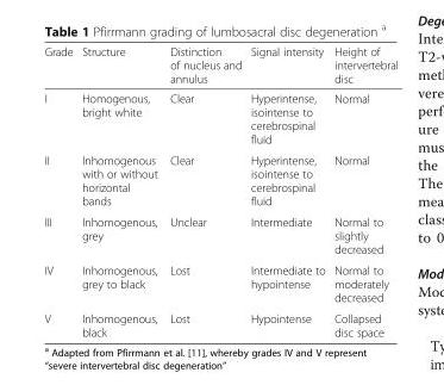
<table><thead><tr><td>Grade</td><td>Structure</td><td>Distinction of nucleus and annulus</td><td>Signal intensity</td><td>Height of intervertebral disc</td></tr></thead><tbody><tr><td>I</td><td>Homogenous, bright white</td><td>Clear</td><td>Hyperintense, isointense to cerebrospinal fluid</td><td>Normal</td></tr><tr><td>II</td><td>Inhomogenous with or without horizontal bands</td><td>Clear</td><td>Hyperintense, isointense to cerebrospinal fluid</td><td>Normal</td></tr><tr><td>III</td><td>Inhomogenous, grey</td><td>Unclear</td><td>Intermediate</td><td>Normal to slightly decreased</td></tr><tr><td>IV</td><td>Inhomogenous, grey to black</td><td>Lost</td><td>Intermediate to hypointense</td><td>Normal to moderately decreased</td></tr><tr><td>V</td><td>Inhomogenous, black</td><td>Lost</td><td>Hypointense</td><td>Collapsed disc space</td></tr></tbody></table>